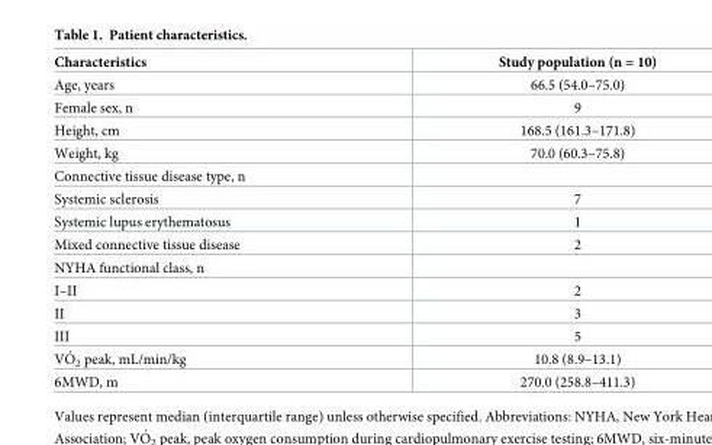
<table><thead><tr><td>Characteristics</td><td>Study population (n = 10)</td></tr></thead><tbody><tr><td>Age, years</td><td>66.5 (54.0–75.0)</td></tr><tr><td>Female sex, n</td><td>9</td></tr><tr><td>Height, cm</td><td>168.5 (161.3–171.8)</td></tr><tr><td>Weight, kg</td><td>70.0 (60.3–75.8)</td></tr><tr><td colspan="2">Connective tissue disease type, n</td></tr><tr><td>Systemic sclerosis</td><td>7</td></tr><tr><td>Systemic lupus erythematosus</td><td>1</td></tr><tr><td>Mixed connective tissue disease</td><td>2</td></tr><tr><td colspan="2">NYHA functional class, n</td></tr><tr><td>I–II</td><td>2</td></tr><tr><td>II</td><td>3</td></tr><tr><td>III</td><td>5</td></tr><tr><td>VO´ 2 peak, mL/min/kg</td><td>10.8 (8.9–13.1)</td></tr><tr><td>6MWD, m</td><td>270.0 (258.8–411.3)</td></tr></tbody></table>